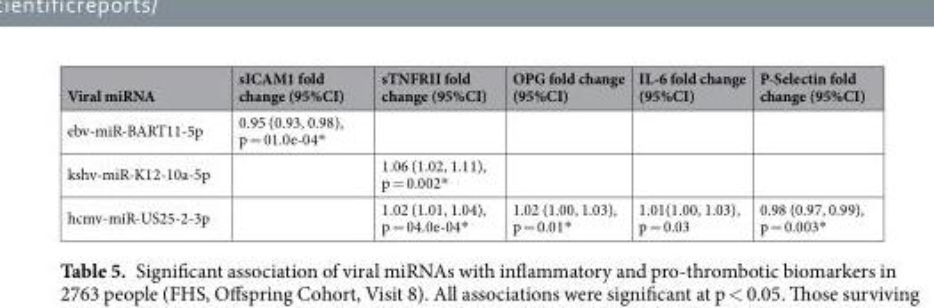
<table><thead><tr><td>Viral miRNA</td><td>sICAM1 fold change (95%CI)</td><td>sTNFRII fold change (95%CI)</td><td>OPG fold change (95%CI)</td><td>IL-6 fold change (95%CI)</td><td>P-Selectin fold change (95%CI)</td></tr></thead><tbody><tr><td>ebv-miR-BART11-5p</td><td>0.95 (0.93, 0.98), p = 01.0e-04*</td><td></td><td></td><td></td><td></td></tr><tr><td>kshv-miR-K12-10a-5p</td><td></td><td>1.06 (1.02, 1.11), p = 0.002*</td><td></td><td></td><td></td></tr><tr><td>hcmv-miR-US25-2-3p</td><td></td><td>1.02 (1.01, 1.04), p = 04.0e-04*</td><td>1.02 (1.00, 1.03), p = 0.01*</td><td>1.01(1.00, 1.03), p = 0.03</td><td>0.98 (0.97, 0.99), p = 0.003*</td></tr></tbody></table>